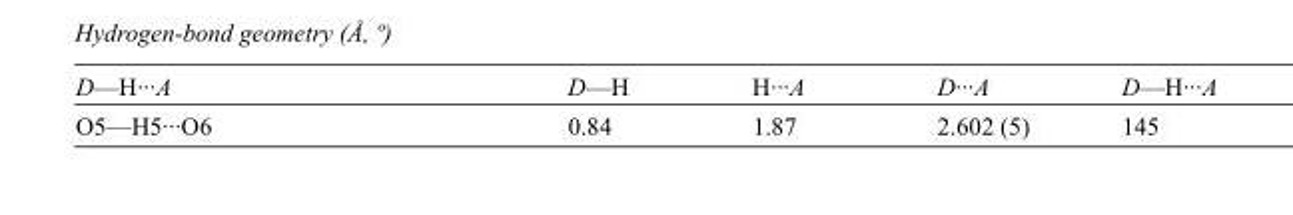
<table><tbody><tr><td>D—H···A</td><td>D—H</td><td>H···A</td><td>D···A</td><td>D—H···A</td></tr><tr><td>O5—H5···O6</td><td>0.84</td><td>1.87</td><td>2.602 (5)</td><td>145</td></tr></tbody></table>